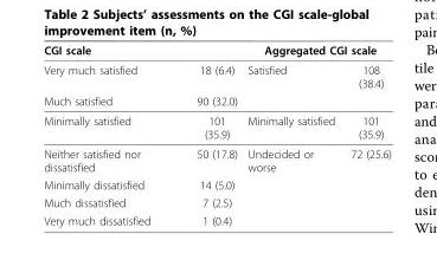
<table><thead><tr><td colspan="2">CGI scale</td><td colspan="2">Aggregated CGI scale</td></tr><tr><td>Very much satisfied</td><td>18 (6.4)</td><td>Satisfied</td><td>108 (38.4)</td></tr></thead><tbody><tr><td>Much satisfied</td><td>90 (32.0)</td><td></td><td></td></tr><tr><td>Minimally satisfied</td><td>101 (35.9)</td><td>Minimally satisfied</td><td>101 (35.9)</td></tr><tr><td>Neither satisfied nor dissatisfied</td><td>50 (17.8)</td><td>Undecided or worse</td><td>72 (25.6)</td></tr><tr><td>Minimally dissatisfied</td><td>14 (5.0)</td><td></td><td></td></tr><tr><td>Much dissatisfied</td><td>7 (2.5)</td><td></td><td></td></tr><tr><td>Very much dissatisfied</td><td>1 (0.4)</td><td></td><td></td></tr></tbody></table>